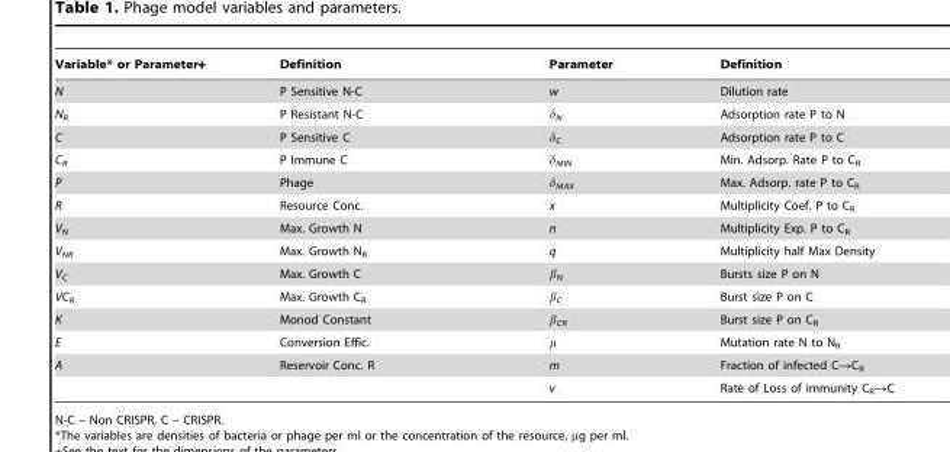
<table><thead><tr><td>Variable* or Parameter+</td><td>Definition</td><td>Parameter</td><td>Definition</td></tr></thead><tbody><tr><td>N</td><td>P Sensitive N-C</td><td>w</td><td>Dilution rate</td></tr><tr><td>N<sub>R</sub></td><td>P Resistant N-C</td><td>δ<sub>N</sub></td><td>Adsorption rate P to N</td></tr><tr><td>C</td><td>P Sensitive C</td><td>δ<sub>C</sub></td><td>Adsorption rate P to C</td></tr><tr><td>C<sub>R</sub></td><td>P Immune C</td><td>δ<sub>MIN</sub></td><td>Min. Adsorp. Rate P to C<sub>R</sub></td></tr><tr><td>P</td><td>Phage</td><td>δ<sub>MAX</sub></td><td>Max. Adsorp. rate P to C<sub>R</sub></td></tr><tr><td>R</td><td>Resource Conc.</td><td>x</td><td>Multiplicity Coef. P to C<sub>R</sub></td></tr><tr><td>V<sub>N</sub></td><td>Max. Growth N</td><td>n</td><td>Multiplicity Exp. P to C<sub>R</sub></td></tr><tr><td>V<sub>NR</sub></td><td>Max. Growth N<sub>R</sub></td><td>q</td><td>Multiplicity half Max Density</td></tr><tr><td>V<sub>C</sub></td><td>Max. Growth C</td><td>β<sub>N</sub></td><td>Bursts size P on N</td></tr><tr><td>VC<sub>R</sub></td><td>Max. Growth C<sub>R</sub></td><td>β<sub>C</sub></td><td>Burst size P on C</td></tr><tr><td>K</td><td>Monod Constant</td><td>β<sub>CR</sub></td><td>Burst size P on C<sub>R</sub></td></tr><tr><td>E</td><td>Conversion Effic.</td><td>μ</td><td>Mutation rate N to N<sub>R</sub></td></tr><tr><td rowspan="2">A</td><td>Reservoir Conc. R</td><td>m</td><td>Fraction of infected C→C<sub>R</sub></td></tr><tr><td></td><td>v</td><td>Rate of Loss of immunity C<sub>R</sub>→C</td></tr></tbody></table>